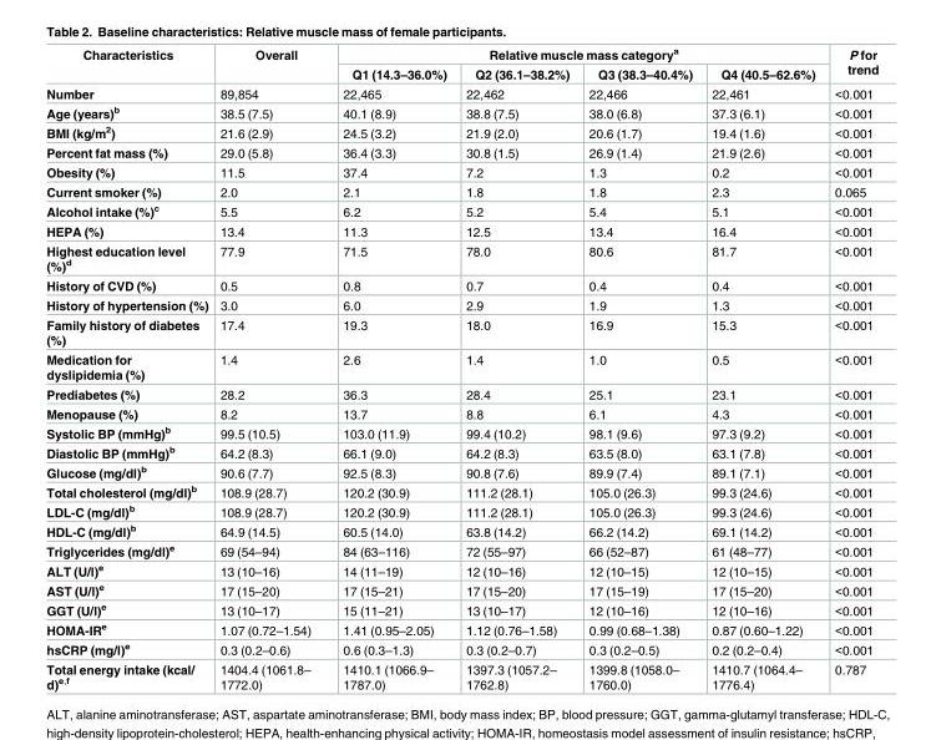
<table><thead><tr><td rowspan="2">Characteristics</td><td rowspan="2">Overall</td><td colspan="4">Relative muscle mass category<sup>a</sup></td><td rowspan="2">P for trend</td></tr><tr><td>Q1 (14.3–36.0%)</td><td>Q2 (36.1–38.2%)</td><td>Q3 (38.3–40.4%)</td><td>Q4 (40.5–62.6%)</td></tr></thead><tbody><tr><td>Number</td><td>89,854</td><td>22,465</td><td>22,462</td><td>22,466</td><td>22,461</td><td>&lt;0.001</td></tr><tr><td>Age (years)<sup>b</sup></td><td>38.5 (7.5)</td><td>40.1 (8.9)</td><td>38.8 (7.5)</td><td>38.0 (6.8)</td><td>37.3 (6.1)</td><td>&lt;0.001</td></tr><tr><td>BMI (kg/m<sup>2</sup>)</td><td>21.6 (2.9)</td><td>24.5 (3.2)</td><td>21.9 (2.0)</td><td>20.6 (1.7)</td><td>19.4 (1.6)</td><td>&lt;0.001</td></tr><tr><td>Percent fat mass (%)</td><td>29.0 (5.8)</td><td>36.4 (3.3)</td><td>30.8 (1.5)</td><td>26.9 (1.4)</td><td>21.9 (2.6)</td><td>&lt;0.001</td></tr><tr><td>Obesity (%)</td><td>11.5</td><td>37.4</td><td>7.2</td><td>1.3</td><td>0.2</td><td>&lt;0.001</td></tr><tr><td>Current smoker (%)</td><td>2.0</td><td>2.1</td><td>1.8</td><td>1.8</td><td>2.3</td><td>0.065</td></tr><tr><td>Alcohol intake (%)<sup>c</sup></td><td>5.5</td><td>6.2</td><td>5.2</td><td>5.4</td><td>5.1</td><td>&lt;0.001</td></tr><tr><td>HEPA (%)</td><td>13.4</td><td>11.3</td><td>12.5</td><td>13.4</td><td>16.4</td><td>&lt;0.001</td></tr><tr><td>Highest education level (%)<sup>d</sup></td><td>77.9</td><td>71.5</td><td>78.0</td><td>80.6</td><td>81.7</td><td>&lt;0.001</td></tr><tr><td>History of CVD (%)</td><td>0.5</td><td>0.8</td><td>0.7</td><td>0.4</td><td>0.4</td><td>&lt;0.001</td></tr><tr><td>History of hypertension (%)</td><td>3.0</td><td>6.0</td><td>2.9</td><td>1.9</td><td>1.3</td><td>&lt;0.001</td></tr><tr><td>Family history of diabetes (%)</td><td>17.4</td><td>19.3</td><td>18.0</td><td>16.9</td><td>15.3</td><td>&lt;0.001</td></tr><tr><td>Medication for dyslipidemia (%)</td><td>1.4</td><td>2.6</td><td>1.4</td><td>1.0</td><td>0.5</td><td>&lt;0.001</td></tr><tr><td>Prediabetes (%)</td><td>28.2</td><td>36.3</td><td>28.4</td><td>25.1</td><td>23.1</td><td>&lt;0.001</td></tr><tr><td>Menopause (%)</td><td>8.2</td><td>13.7</td><td>8.8</td><td>6.1</td><td>4.3</td><td>&lt;0.001</td></tr><tr><td>Systolic BP (mmHg)<sup>b</sup></td><td>99.5 (10.5)</td><td>103.0 (11.9)</td><td>99.4 (10.2)</td><td>98.1 (9.6)</td><td>97.3 (9.2)</td><td>&lt;0.001</td></tr><tr><td>Diastolic BP (mmHg)<sup>b</sup></td><td>64.2 (8.3)</td><td>66.1 (9.0)</td><td>64.2 (8.3)</td><td>63.5 (8.0)</td><td>63.1 (7.8)</td><td>&lt;0.001</td></tr><tr><td>Glucose (mg/dl)<sup>b</sup></td><td>90.6 (7.7)</td><td>92.5 (8.3)</td><td>90.8 (7.6)</td><td>89.9 (7.4)</td><td>89.1 (7.1)</td><td>&lt;0.001</td></tr><tr><td>Total cholesterol (mg/dl)<sup>b</sup></td><td>108.9 (28.7)</td><td>120.2 (30.9)</td><td>111.2 (28.1)</td><td>105.0 (26.3)</td><td>99.3 (24.6)</td><td>&lt;0.001</td></tr><tr><td>LDL-C (mg/dl)<sup>b</sup></td><td>108.9 (28.7)</td><td>120.2 (30.9)</td><td>111.2 (28.1)</td><td>105.0 (26.3)</td><td>99.3 (24.6)</td><td>&lt;0.001</td></tr><tr><td>HDL-C (mg/dl)<sup>b</sup></td><td>64.9 (14.5)</td><td>60.5 (14.0)</td><td>63.8 (14.2)</td><td>66.2 (14.2)</td><td>69.1 (14.2)</td><td>&lt;0.001</td></tr><tr><td>Triglycerides (mg/dl)<sup>e</sup></td><td>69 (54–94)</td><td>84 (63–116)</td><td>72 (55–97)</td><td>66 (52–87)</td><td>61 (48–77)</td><td>&lt;0.001</td></tr><tr><td>ALT (U/l)<sup>e</sup></td><td>13 (10–16)</td><td>14 (11–19)</td><td>12 (10–16)</td><td>12 (10–15)</td><td>12 (10–15)</td><td>&lt;0.001</td></tr><tr><td>AST (U/l)<sup>e</sup></td><td>17 (15–20)</td><td>17 (15–21)</td><td>17 (15–20)</td><td>17 (15–19)</td><td>17 (15–20)</td><td>&lt;0.001</td></tr><tr><td>GGT (U/l)<sup>e</sup></td><td>13 (10–17)</td><td>15 (11–21)</td><td>13 (10–17)</td><td>12 (10–16)</td><td>12 (10–16)</td><td>&lt;0.001</td></tr><tr><td>HOMA-IR<sup>e</sup></td><td>1.07 (0.72–1.54)</td><td>1.41 (0.95–2.05)</td><td>1.12 (0.76–1.58)</td><td>0.99 (0.68–1.38)</td><td>0.87 (0.60–1.22)</td><td>&lt;0.001</td></tr><tr><td>hsCRP (mg/l)<sup>e</sup></td><td>0.3 (0.2–0.6)</td><td>0.6 (0.3–1.3)</td><td>0.3 (0.2–0.7)</td><td>0.3 (0.2–0.5)</td><td>0.2 (0.2–0.4)</td><td>&lt;0.001</td></tr><tr><td>Total energy intake (kcal/ d)<sup>e,f</sup></td><td>1404.4 (1061.8– 1772.0)</td><td>1410.1 (1066.9– 1787.0)</td><td>1397.3 (1057.2– 1762.8)</td><td>1399.8 (1058.0– 1760.0)</td><td>1410.7 (1064.4– 1776.4)</td><td>0.787</td></tr></tbody></table>